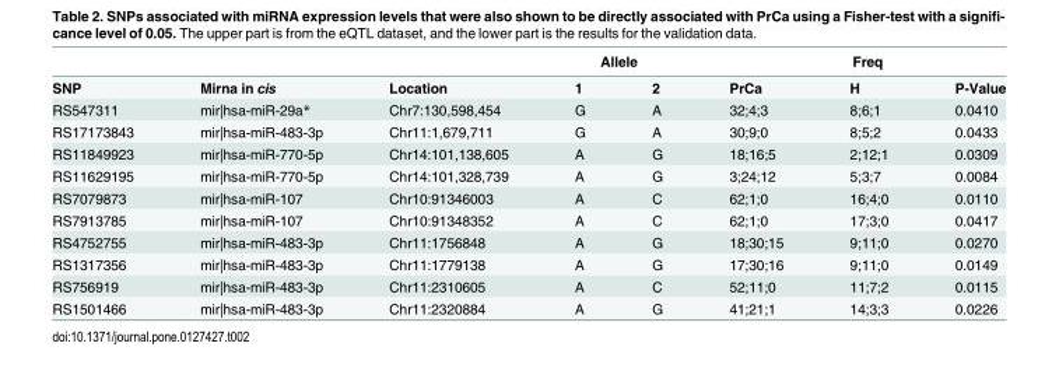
<table><thead><tr><td rowspan="2">SNP</td><td rowspan="2">Mirna in cis</td><td rowspan="2">Location</td><td colspan="2">Allele</td><td colspan="3">Freq</td></tr><tr><td>1</td><td>2</td><td>PrCa</td><td>H</td><td>P-Value</td></tr></thead><tbody><tr><td>RS547311</td><td>mir|hsa-miR-29a*</td><td>Chr7:130,598,454</td><td>G</td><td>A</td><td>32;4;3</td><td>8;6;1</td><td>0.0410</td></tr><tr><td>RS17173843</td><td>mir|hsa-miR-483-3p</td><td>Chr11:1,679,711</td><td>G</td><td>A</td><td>30;9;0</td><td>8;5;2</td><td>0.0433</td></tr><tr><td>RS11849923</td><td>mir|hsa-miR-770-5p</td><td>Chr14:101,138,605</td><td>A</td><td>G</td><td>18;16;5</td><td>2;12;1</td><td>0.0309</td></tr><tr><td>RS11629195</td><td>mir|hsa-miR-770-5p</td><td>Chr14:101,328,739</td><td>A</td><td>G</td><td>3;24;12</td><td>5;3;7</td><td>0.0084</td></tr><tr><td>RS7079873</td><td>mir|hsa-miR-107</td><td>Chr10:91346003</td><td>A</td><td>C</td><td>62;1;0</td><td>16;4;0</td><td>0.0110</td></tr><tr><td>RS7913785</td><td>mir|hsa-miR-107</td><td>Chr10:91348352</td><td>A</td><td>C</td><td>62;1;0</td><td>17;3;0</td><td>0.0417</td></tr><tr><td>RS4752755</td><td>mir|hsa-miR-483-3p</td><td>Chr11:1756848</td><td>A</td><td>G</td><td>18;30;15</td><td>9;11;0</td><td>0.0270</td></tr><tr><td>RS1317356</td><td>mir|hsa-miR-483-3p</td><td>Chr11:1779138</td><td>A</td><td>G</td><td>17;30;16</td><td>9;11;0</td><td>0.0149</td></tr><tr><td>RS756919</td><td>mir|hsa-miR-483-3p</td><td>Chr11:2310605</td><td>A</td><td>C</td><td>52;11;0</td><td>11;7;2</td><td>0.0115</td></tr><tr><td>RS1501466</td><td>mir|hsa-miR-483-3p</td><td>Chr11:2320884</td><td>A</td><td>G</td><td>41;21;1</td><td>14;3;3</td><td>0.0226</td></tr></tbody></table>